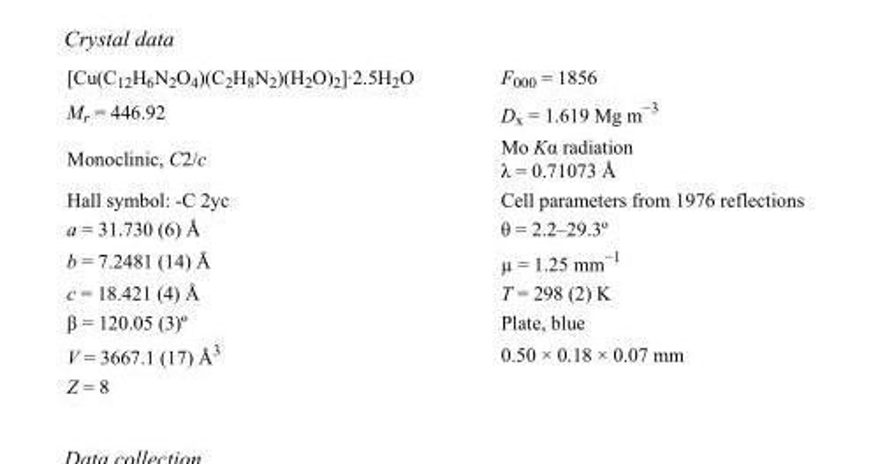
<table><tbody><tr><td>[Cu(C<sub>12</sub>H<sub>6</sub>N<sub>2</sub>O<sub>4</sub>)(C<sub>2</sub>H<sub>8</sub>N<sub>2</sub>)(H<sub>2</sub>O)<sub>2</sub>]·2.5H<sub>2</sub>O</td><td>F000 = 1856</td></tr><tr><td>M<sub>r</sub> = 446.92</td><td>D<sub>x</sub> = 1.619 Mg m<sup>−3</sup></td></tr><tr><td>Monoclinic, C2/c</td><td>Mo Kα radiation λ = 0.71073 Å</td></tr><tr><td>Hall symbol: -C 2yc</td><td>Cell parameters from 1976 reflections</td></tr><tr><td>a = 31.730 (6) Å</td><td>θ = 2.2–29.3º</td></tr><tr><td>b = 7.2481 (14) Å</td><td>µ = 1.25 mm<sup>−1</sup></td></tr><tr><td>c = 18.421 (4) Å</td><td>T = 298 (2) K</td></tr><tr><td>β = 120.05 (3)º</td><td>Plate, blue</td></tr><tr><td>V = 3667.1 (17) Å<sup>3</sup></td><td>0.50 × 0.18 × 0.07 mm</td></tr><tr><td>Z = 8</td><td></td></tr></tbody></table>